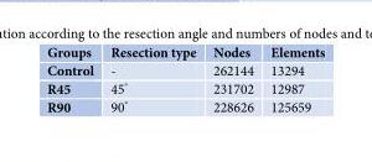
<table><thead><tr><td>Groups</td><td>Resection type</td><td>Nodes</td><td>Elements</td></tr></thead><tbody><tr><td>Control</td><td>-</td><td>262144</td><td>13294</td></tr><tr><td>R45</td><td>45<sup>°</sup></td><td>231702</td><td>12987</td></tr><tr><td>R90</td><td>90<sup>°</sup></td><td>228626</td><td>125659</td></tr></tbody></table>